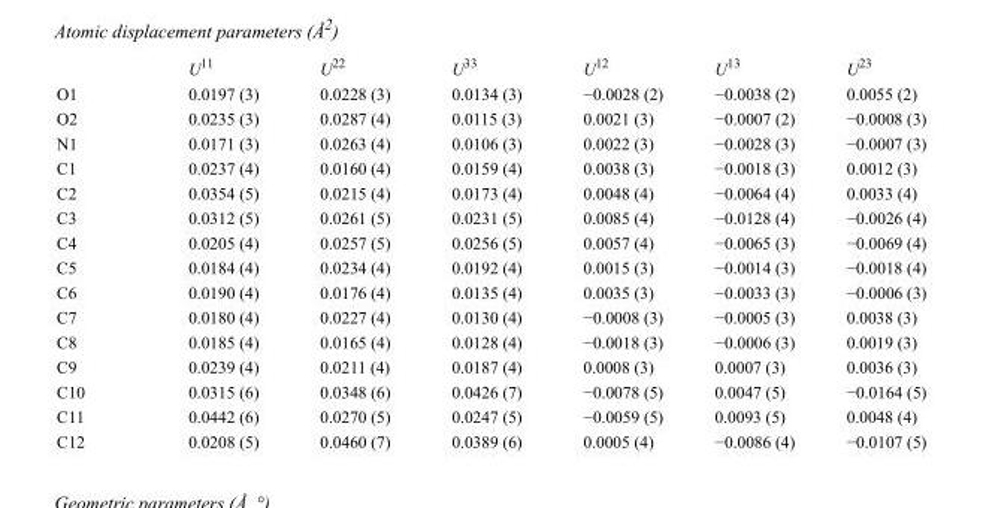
<table><thead><tr><td></td><td>U<sup>11</sup></td><td>U<sup>22</sup></td><td>U<sup>33</sup></td><td>U<sup>12</sup></td><td>U<sup>13</sup></td><td>U<sup>23</sup></td></tr></thead><tbody><tr><td>O1</td><td>0.0197 (3)</td><td>0.0228 (3)</td><td>0.0134 (3)</td><td>−0.0028 (2)</td><td>−0.0038 (2)</td><td>0.0055 (2)</td></tr><tr><td>O2</td><td>0.0235 (3)</td><td>0.0287 (4)</td><td>0.0115 (3)</td><td>0.0021 (3)</td><td>−0.0007 (2)</td><td>−0.0008 (3)</td></tr><tr><td>N1</td><td>0.0171 (3)</td><td>0.0263 (4)</td><td>0.0106 (3)</td><td>0.0022 (3)</td><td>−0.0028 (3)</td><td>−0.0007 (3)</td></tr><tr><td>C1</td><td>0.0237 (4)</td><td>0.0160 (4)</td><td>0.0159 (4)</td><td>0.0038 (3)</td><td>−0.0018 (3)</td><td>0.0012 (3)</td></tr><tr><td>C2</td><td>0.0354 (5)</td><td>0.0215 (4)</td><td>0.0173 (4)</td><td>0.0048 (4)</td><td>−0.0064 (4)</td><td>0.0033 (4)</td></tr><tr><td>C3</td><td>0.0312 (5)</td><td>0.0261 (5)</td><td>0.0231 (5)</td><td>0.0085 (4)</td><td>−0.0128 (4)</td><td>−0.0026 (4)</td></tr><tr><td>C4</td><td>0.0205 (4)</td><td>0.0257 (5)</td><td>0.0256 (5)</td><td>0.0057 (4)</td><td>−0.0065 (3)</td><td>−0.0069 (4)</td></tr><tr><td>C5</td><td>0.0184 (4)</td><td>0.0234 (4)</td><td>0.0192 (4)</td><td>0.0015 (3)</td><td>−0.0014 (3)</td><td>−0.0018 (4)</td></tr><tr><td>C6</td><td>0.0190 (4)</td><td>0.0176 (4)</td><td>0.0135 (4)</td><td>0.0035 (3)</td><td>−0.0033 (3)</td><td>−0.0006 (3)</td></tr><tr><td>C7</td><td>0.0180 (4)</td><td>0.0227 (4)</td><td>0.0130 (4)</td><td>−0.0008 (3)</td><td>−0.0005 (3)</td><td>0.0038 (3)</td></tr><tr><td>C8</td><td>0.0185 (4)</td><td>0.0165 (4)</td><td>0.0128 (4)</td><td>−0.0018 (3)</td><td>−0.0006 (3)</td><td>0.0019 (3)</td></tr><tr><td>C9</td><td>0.0239 (4)</td><td>0.0211 (4)</td><td>0.0187 (4)</td><td>0.0008 (3)</td><td>0.0007 (3)</td><td>0.0036 (3)</td></tr><tr><td>C10</td><td>0.0315 (6)</td><td>0.0348 (6)</td><td>0.0426 (7)</td><td>−0.0078 (5)</td><td>0.0047 (5)</td><td>−0.0164 (5)</td></tr><tr><td>C11</td><td>0.0442 (6)</td><td>0.0270 (5)</td><td>0.0247 (5)</td><td>−0.0059 (5)</td><td>0.0093 (5)</td><td>0.0048 (4)</td></tr><tr><td>C12</td><td>0.0208 (5)</td><td>0.0460 (7)</td><td>0.0389 (6)</td><td>0.0005 (4)</td><td>−0.0086 (4)</td><td>−0.0107 (5)</td></tr></tbody></table>